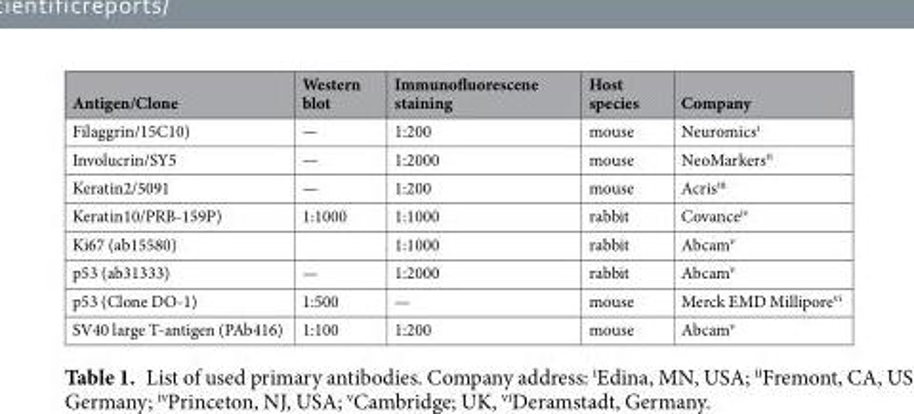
<table><thead><tr><td>Antigen/Clone</td><td>Western blot</td><td>Immunofluorescene staining</td><td>Host species</td><td>Company</td></tr></thead><tbody><tr><td>Filaggrin/15C10)</td><td>—</td><td>1:200</td><td>mouse</td><td>Neuromics<sup>i</sup></td></tr><tr><td>Involucrin/SY5</td><td>—</td><td>1:2000</td><td>mouse</td><td>NeoMarkers<sup>ii</sup></td></tr><tr><td>Keratin2/5091</td><td>—</td><td>1:200</td><td>mouse</td><td>Acris<sup>iii</sup></td></tr><tr><td>Keratin10/PRB-159P)</td><td>1:1000</td><td>1:1000</td><td>rabbit</td><td>Covance<sup>iv</sup></td></tr><tr><td>Ki67 (ab15580)</td><td></td><td>1:1000</td><td>rabbit</td><td>Abcam<sup>v</sup></td></tr><tr><td>p53 (ab31333)</td><td>—</td><td>1:2000</td><td>rabbit</td><td>Abcam<sup>v</sup></td></tr><tr><td>p53 (Clone DO-1)</td><td>1:500</td><td>—</td><td>mouse</td><td>Merck EMD Millipore<sup>vi</sup></td></tr><tr><td>SV40 large T-antigen (PAb416)</td><td>1:100</td><td>1:200</td><td>mouse</td><td>Abcam<sup>v</sup></td></tr></tbody></table>